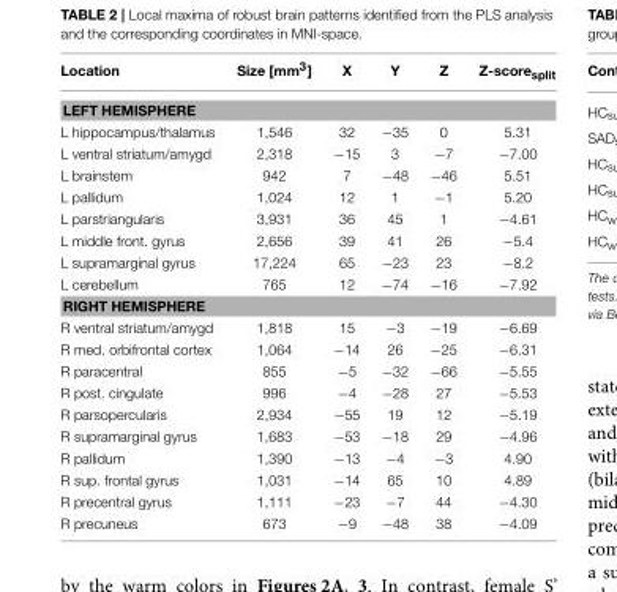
<table><thead><tr><td>Location</td><td>Size [mm<sup>3</sup>]</td><td>X</td><td>Y</td><td>Z</td><td>Z-score<sub>split</sub></td></tr></thead><tbody><tr><td colspan="6">LEFT HEMISPHERE</td></tr><tr><td>L hippocampus/thalamus</td><td>1,546</td><td>32</td><td>−35</td><td>0</td><td>5.31</td></tr><tr><td>L ventral striatum/amygd</td><td>2,318</td><td>−15</td><td>3</td><td>−7</td><td>−7.00</td></tr><tr><td>L brainstem</td><td>942</td><td>7</td><td>−48</td><td>−46</td><td>5.51</td></tr><tr><td>L pallidum</td><td>1,024</td><td>12</td><td>1</td><td>−1</td><td>5.20</td></tr><tr><td>L parstriangularis</td><td>3,931</td><td>36</td><td>45</td><td>1</td><td>−4.61</td></tr><tr><td>L middle front. gyrus</td><td>2,656</td><td>39</td><td>41</td><td>26</td><td>−5.4</td></tr><tr><td>L supramarginal gyrus</td><td>17,224</td><td>65</td><td>−23</td><td>23</td><td>−8.2</td></tr><tr><td>L cerebellum</td><td>765</td><td>12</td><td>−74</td><td>−16</td><td>−7.92</td></tr><tr><td colspan="6">RIGHT HEMISPHERE</td></tr><tr><td>R ventral striatum/amygd</td><td>1,818</td><td>15</td><td>−3</td><td>−19</td><td>−6.69</td></tr><tr><td>R med. orbifrontal cortex</td><td>1,064</td><td>−14</td><td>26</td><td>−25</td><td>−6.31</td></tr><tr><td>R paracentral</td><td>855</td><td>−5</td><td>−32</td><td>−66</td><td>−5.55</td></tr><tr><td>R post. cingulate</td><td>996</td><td>−4</td><td>−28</td><td>27</td><td>−5.53</td></tr><tr><td>R parsopercularis</td><td>2,934</td><td>−55</td><td>19</td><td>12</td><td>−5.19</td></tr><tr><td>R supramarginal gyrus</td><td>1,683</td><td>−53</td><td>−18</td><td>29</td><td>−4.96</td></tr><tr><td>R pallidum</td><td>1,390</td><td>−13</td><td>−4</td><td>−3</td><td>4.90</td></tr><tr><td>R sup. frontal gyrus</td><td>1,031</td><td>−14</td><td>65</td><td>10</td><td>4.89</td></tr><tr><td>R precentral gyrus</td><td>1,111</td><td>−23</td><td>−7</td><td>44</td><td>−4.30</td></tr><tr><td>R precuneus</td><td>673</td><td>−9</td><td>−48</td><td>38</td><td>−4.09</td></tr></tbody></table>